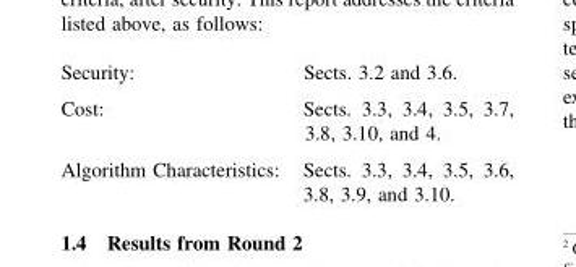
<table><tbody><tr><td>Security:</td><td>Sects. 3.2 and 3.6.</td></tr><tr><td>Cost:</td><td>Sects. 3.3, 3.4, 3.5, 3.7, 3.8, 3.10, and 4.</td></tr><tr><td>Algorithm Characteristics:</td><td>Sects. 3.3, 3.4, 3.5, 3.6, 3.8, 3.9, and 3.10.</td></tr></tbody></table>